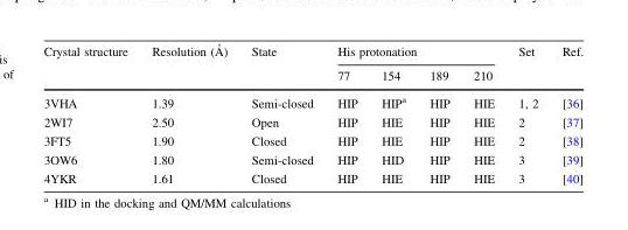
<table><thead><tr><td rowspan="2">Crystal structure</td><td rowspan="2">Resolution (A˚ )</td><td rowspan="2">State</td><td colspan="4">His protonation</td><td rowspan="2">Set</td><td rowspan="2">Ref.</td></tr><tr><td>77</td><td>154</td><td>189</td><td>210</td></tr></thead><tbody><tr><td>3VHA</td><td>1.39</td><td>Semi-closed</td><td>HIP</td><td>HIP<sup>a</sup></td><td>HIP</td><td>HIE</td><td>1, 2</td><td>[36]</td></tr><tr><td>2WI7</td><td>2.50</td><td>Open</td><td>HIP</td><td>HIE</td><td>HIP</td><td>HIE</td><td>2</td><td>[37]</td></tr><tr><td>3FT5</td><td>1.90</td><td>Closed</td><td>HIP</td><td>HIE</td><td>HIP</td><td>HIE</td><td>2</td><td>[38]</td></tr><tr><td>3OW6</td><td>1.80</td><td>Semi-closed</td><td>HIP</td><td>HID</td><td>HIP</td><td>HIE</td><td>3</td><td>[39]</td></tr><tr><td>4YKR</td><td>1.61</td><td>Closed</td><td>HIP</td><td>HIE</td><td>HIP</td><td>HIE</td><td>3</td><td>[40]</td></tr></tbody></table>